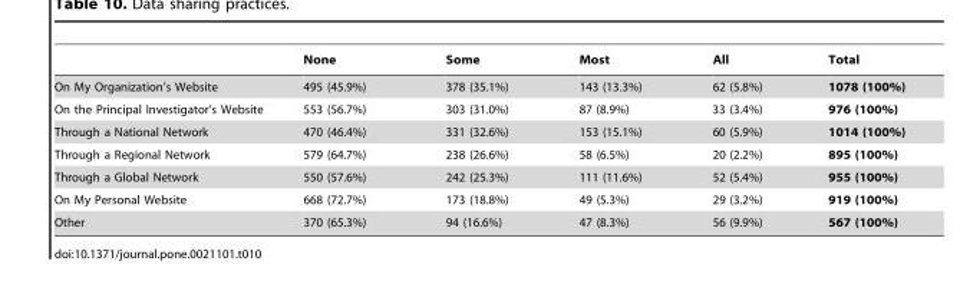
<table><thead><tr><td></td><td>None</td><td>Some</td><td>Most</td><td>All</td><td>Total</td></tr></thead><tbody><tr><td>On My Organization’s Website</td><td>495 (45.9%)</td><td>378 (35.1%)</td><td>143 (13.3%)</td><td>62 (5.8%)</td><td>1078 (100%)</td></tr><tr><td>On the Principal Investigator’s Website</td><td>553 (56.7%)</td><td>303 (31.0%)</td><td>87 (8.9%)</td><td>33 (3.4%)</td><td>976 (100%)</td></tr><tr><td>Through a National Network</td><td>470 (46.4%)</td><td>331 (32.6%)</td><td>153 (15.1%)</td><td>60 (5.9%)</td><td>1014 (100%)</td></tr><tr><td>Through a Regional Network</td><td>579 (64.7%)</td><td>238 (26.6%)</td><td>58 (6.5%)</td><td>20 (2.2%)</td><td>895 (100%)</td></tr><tr><td>Through a Global Network</td><td>550 (57.6%)</td><td>242 (25.3%)</td><td>111 (11.6%)</td><td>52 (5.4%)</td><td>955 (100%)</td></tr><tr><td>On My Personal Website</td><td>668 (72.7%)</td><td>173 (18.8%)</td><td>49 (5.3%)</td><td>29 (3.2%)</td><td>919 (100%)</td></tr><tr><td>Other</td><td>370 (65.3%)</td><td>94 (16.6%)</td><td>47 (8.3%)</td><td>56 (9.9%)</td><td>567 (100%)</td></tr></tbody></table>